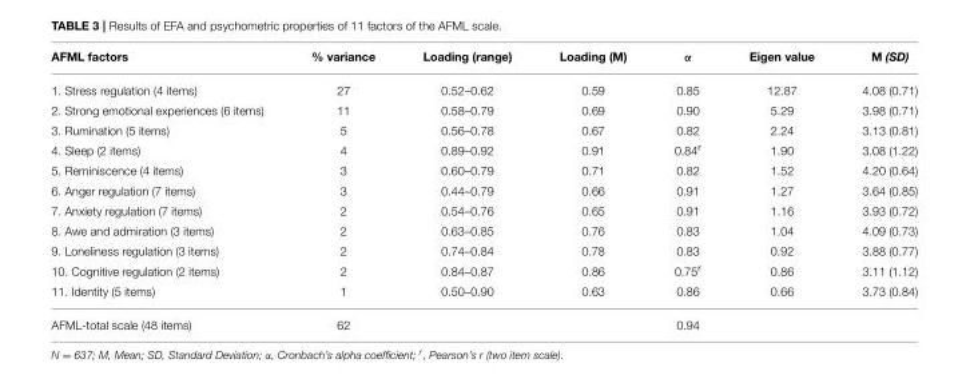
<table><thead><tr><td>AFML factors</td><td>% variance</td><td>Loading (range)</td><td>Loading (M)</td><td>α</td><td>Eigen value</td><td>M (SD)</td></tr></thead><tbody><tr><td>1. Stress regulation (4 items)</td><td>27</td><td>0.52–0.62</td><td>0.59</td><td>0.85</td><td>12.87</td><td>4.08 (0.71)</td></tr><tr><td>2. Strong emotional experiences (6 items)</td><td>11</td><td>0.58–0.79</td><td>0.69</td><td>0.90</td><td>5.29</td><td>3.98 (0.71)</td></tr><tr><td>3. Rumination (5 items)</td><td>5</td><td>0.56–0.78</td><td>0.67</td><td>0.82</td><td>2.24</td><td>3.13 (0.81)</td></tr><tr><td>4. Sleep (2 items)</td><td>4</td><td>0.89–0.92</td><td>0.91</td><td>0.84<sup>r</sup></td><td>1.90</td><td>3.08 (1.22)</td></tr><tr><td>5. Reminiscence (4 items)</td><td>3</td><td>0.60–0.79</td><td>0.71</td><td>0.82</td><td>1.52</td><td>4.20 (0.64)</td></tr><tr><td>6. Anger regulation (7 items)</td><td>3</td><td>0.44–0.79</td><td>0.66</td><td>0.91</td><td>1.27</td><td>3.64 (0.85)</td></tr><tr><td>7. Anxiety regulation (7 items)</td><td>2</td><td>0.54–0.76</td><td>0.65</td><td>0.91</td><td>1.16</td><td>3.93 (0.72)</td></tr><tr><td>8. Awe and admiration (3 items)</td><td>2</td><td>0.63–0.85</td><td>0.76</td><td>0.83</td><td>1.04</td><td>4.09 (0.73)</td></tr><tr><td>9. Loneliness regulation (3 items)</td><td>2</td><td>0.74–0.84</td><td>0.78</td><td>0.83</td><td>0.92</td><td>3.88 (0.77)</td></tr><tr><td>10. Cognitive regulation (2 items)</td><td>2</td><td>0.84–0.87</td><td>0.86</td><td>0.75<sup>r</sup></td><td>0.86</td><td>3.11 (1.12)</td></tr><tr><td>11. Identity (5 items)</td><td>1</td><td>0.50–0.90</td><td>0.63</td><td>0.86</td><td>0.66</td><td>3.73 (0.84)</td></tr><tr><td>AFML-total scale (48 items)</td><td>62</td><td></td><td></td><td>0.94</td><td></td><td></td></tr></tbody></table>